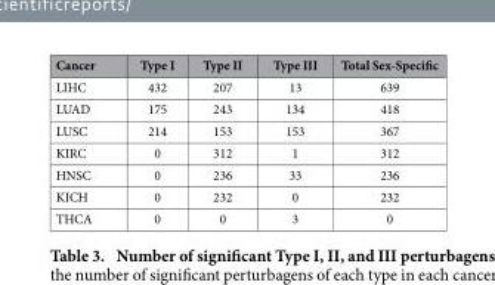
<table><thead><tr><td>Cancer</td><td>Type I</td><td>Type II</td><td>Type III</td><td>Total Sex-Specific</td></tr></thead><tbody><tr><td>LIHC</td><td>432</td><td>207</td><td>13</td><td>639</td></tr><tr><td>LUAD</td><td>175</td><td>243</td><td>134</td><td>418</td></tr><tr><td>LUSC</td><td>214</td><td>153</td><td>153</td><td>367</td></tr><tr><td>KIRC</td><td>0</td><td>312</td><td>1</td><td>312</td></tr><tr><td>HNSC</td><td>0</td><td>236</td><td>33</td><td>236</td></tr><tr><td>KICH</td><td>0</td><td>232</td><td>0</td><td>232</td></tr><tr><td>THCA</td><td>0</td><td>0</td><td>3</td><td>0</td></tr></tbody></table>